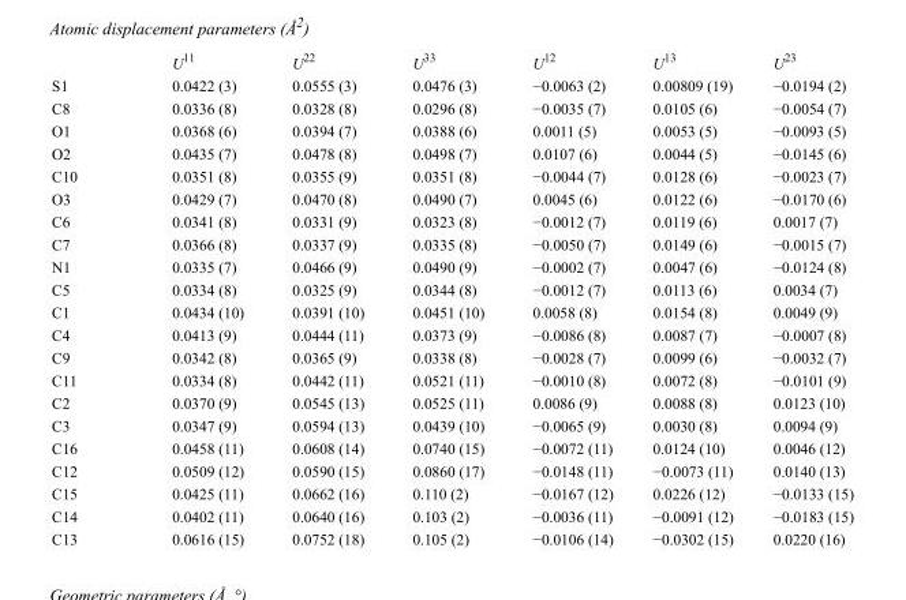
<table><thead><tr><td></td><td>U<sup>11</sup></td><td>U<sup>22</sup></td><td>U<sup>33</sup></td><td>U<sup>12</sup></td><td>U<sup>13</sup></td><td>U<sup>23</sup></td></tr></thead><tbody><tr><td>S1</td><td>0.0422 (3)</td><td>0.0555 (3)</td><td>0.0476 (3)</td><td>−0.0063 (2)</td><td>0.00809 (19)</td><td>−0.0194 (2)</td></tr><tr><td>C8</td><td>0.0336 (8)</td><td>0.0328 (8)</td><td>0.0296 (8)</td><td>−0.0035 (7)</td><td>0.0105 (6)</td><td>−0.0054 (7)</td></tr><tr><td>O1</td><td>0.0368 (6)</td><td>0.0394 (7)</td><td>0.0388 (6)</td><td>0.0011 (5)</td><td>0.0053 (5)</td><td>−0.0093 (5)</td></tr><tr><td>O2</td><td>0.0435 (7)</td><td>0.0478 (8)</td><td>0.0498 (7)</td><td>0.0107 (6)</td><td>0.0044 (5)</td><td>−0.0145 (6)</td></tr><tr><td>C10</td><td>0.0351 (8)</td><td>0.0355 (9)</td><td>0.0351 (8)</td><td>−0.0044 (7)</td><td>0.0128 (6)</td><td>−0.0023 (7)</td></tr><tr><td>O3</td><td>0.0429 (7)</td><td>0.0470 (8)</td><td>0.0490 (7)</td><td>0.0045 (6)</td><td>0.0122 (6)</td><td>−0.0170 (6)</td></tr><tr><td>C6</td><td>0.0341 (8)</td><td>0.0331 (9)</td><td>0.0323 (8)</td><td>−0.0012 (7)</td><td>0.0119 (6)</td><td>0.0017 (7)</td></tr><tr><td>C7</td><td>0.0366 (8)</td><td>0.0337 (9)</td><td>0.0335 (8)</td><td>−0.0050 (7)</td><td>0.0149 (6)</td><td>−0.0015 (7)</td></tr><tr><td>N1</td><td>0.0335 (7)</td><td>0.0466 (9)</td><td>0.0490 (9)</td><td>−0.0002 (7)</td><td>0.0047 (6)</td><td>−0.0124 (8)</td></tr><tr><td>C5</td><td>0.0334 (8)</td><td>0.0325 (9)</td><td>0.0344 (8)</td><td>−0.0012 (7)</td><td>0.0113 (6)</td><td>0.0034 (7)</td></tr><tr><td>C1</td><td>0.0434 (10)</td><td>0.0391 (10)</td><td>0.0451 (10)</td><td>0.0058 (8)</td><td>0.0154 (8)</td><td>0.0049 (9)</td></tr><tr><td>C4</td><td>0.0413 (9)</td><td>0.0444 (11)</td><td>0.0373 (9)</td><td>−0.0086 (8)</td><td>0.0087 (7)</td><td>−0.0007 (8)</td></tr><tr><td>C9</td><td>0.0342 (8)</td><td>0.0365 (9)</td><td>0.0338 (8)</td><td>−0.0028 (7)</td><td>0.0099 (6)</td><td>−0.0032 (7)</td></tr><tr><td>C11</td><td>0.0334 (8)</td><td>0.0442 (11)</td><td>0.0521 (11)</td><td>−0.0010 (8)</td><td>0.0072 (8)</td><td>−0.0101 (9)</td></tr><tr><td>C2</td><td>0.0370 (9)</td><td>0.0545 (13)</td><td>0.0525 (11)</td><td>0.0086 (9)</td><td>0.0088 (8)</td><td>0.0123 (10)</td></tr><tr><td>C3</td><td>0.0347 (9)</td><td>0.0594 (13)</td><td>0.0439 (10)</td><td>−0.0065 (9)</td><td>0.0030 (8)</td><td>0.0094 (9)</td></tr><tr><td>C16</td><td>0.0458 (11)</td><td>0.0608 (14)</td><td>0.0740 (15)</td><td>−0.0072 (11)</td><td>0.0124 (10)</td><td>0.0046 (12)</td></tr><tr><td>C12</td><td>0.0509 (12)</td><td>0.0590 (15)</td><td>0.0860 (17)</td><td>−0.0148 (11)</td><td>−0.0073 (11)</td><td>0.0140 (13)</td></tr><tr><td>C15</td><td>0.0425 (11)</td><td>0.0662 (16)</td><td>0.110 (2)</td><td>−0.0167 (12)</td><td>0.0226 (12)</td><td>−0.0133 (15)</td></tr><tr><td>C14</td><td>0.0402 (11)</td><td>0.0640 (16)</td><td>0.103 (2)</td><td>−0.0036 (11)</td><td>−0.0091 (12)</td><td>−0.0183 (15)</td></tr><tr><td>C13</td><td>0.0616 (15)</td><td>0.0752 (18)</td><td>0.105 (2)</td><td>−0.0106 (14)</td><td>−0.0302 (15)</td><td>0.0220 (16)</td></tr></tbody></table>